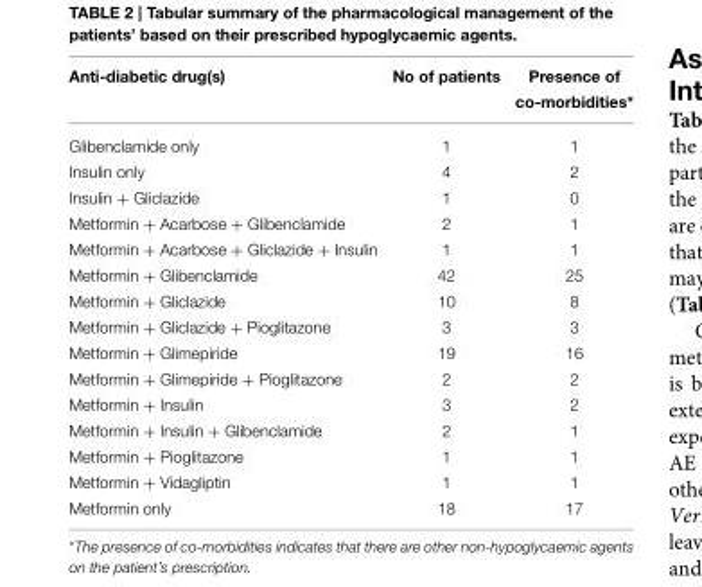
<table><thead><tr><td>Anti-diabetic drug(s)</td><td>No of patients</td><td>Presence of co-morbidities*</td></tr></thead><tbody><tr><td>Glibenclamide only</td><td>1</td><td>1</td></tr><tr><td>Insulin only</td><td>4</td><td>2</td></tr><tr><td>Insulin + Gliclazide</td><td>1</td><td>0</td></tr><tr><td>Metformin + Acarbose + Glibenclamide</td><td>2</td><td>1</td></tr><tr><td>Metformin + Acarbose + Gliclazide + Insulin</td><td>1</td><td>1</td></tr><tr><td>Metformin + Glibenclamide</td><td>42</td><td>25</td></tr><tr><td>Metformin + Gliclazide</td><td>10</td><td>8</td></tr><tr><td>Metformin + Gliclazide + Pioglitazone</td><td>3</td><td>3</td></tr><tr><td>Metformin + Glimepiride</td><td>19</td><td>16</td></tr><tr><td>Metformin + Glimepiride + Pioglitazone</td><td>2</td><td>2</td></tr><tr><td>Metformin + Insulin</td><td>3</td><td>2</td></tr><tr><td>Metformin + Insulin + Glibenclamide</td><td>2</td><td>1</td></tr><tr><td>Metformin + Pioglitazone</td><td>1</td><td>1</td></tr><tr><td>Metformin + Vidagliptin</td><td>1</td><td>1</td></tr><tr><td>Metformin only</td><td>18</td><td>17</td></tr></tbody></table>